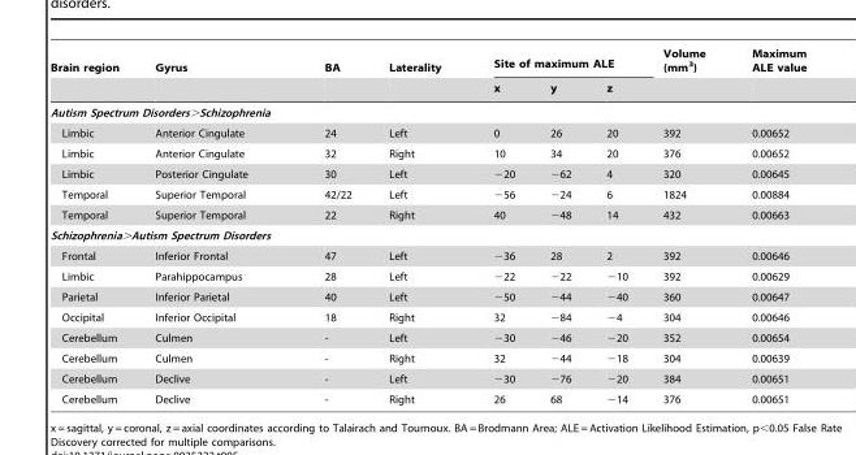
<table><thead><tr><td rowspan="2">Brain region</td><td rowspan="2">Gyrus</td><td rowspan="2">BA</td><td rowspan="2">Laterality</td><td colspan="3">Site of maximum ALE</td><td rowspan="2">Volume (mm<sup>3</sup>)</td><td rowspan="2">Maximum ALE value</td></tr><tr><td>x</td><td>y</td><td>z</td></tr></thead><tbody><tr><td colspan="9">Autism Spectrum Disorders&gt;Schizophrenia</td></tr><tr><td>Limbic</td><td>Anterior Cingulate</td><td>24</td><td>Left</td><td>0</td><td>26</td><td>20</td><td>392</td><td>0.00652</td></tr><tr><td>Limbic</td><td>Anterior Cingulate</td><td>32</td><td>Right</td><td>10</td><td>34</td><td>20</td><td>376</td><td>0.00652</td></tr><tr><td>Limbic</td><td>Posterior Cingulate</td><td>30</td><td>Left</td><td>−20</td><td>−62</td><td>4</td><td>320</td><td>0.00645</td></tr><tr><td>Temporal</td><td>Superior Temporal</td><td>42/22</td><td>Left</td><td>−56</td><td>−24</td><td>6</td><td>1824</td><td>0.00884</td></tr><tr><td>Temporal</td><td>Superior Temporal</td><td>22</td><td>Right</td><td>40</td><td>−48</td><td>14</td><td>432</td><td>0.00663</td></tr><tr><td colspan="9">Schizophrenia&gt;Autism Spectrum Disorders</td></tr><tr><td>Frontal</td><td>Inferior Frontal</td><td>47</td><td>Left</td><td>−36</td><td>28</td><td>2</td><td>392</td><td>0.00646</td></tr><tr><td>Limbic</td><td>Parahippocampus</td><td>28</td><td>Left</td><td>−22</td><td>−22</td><td>−10</td><td>392</td><td>0.00629</td></tr><tr><td>Parietal</td><td>Inferior Parietal</td><td>40</td><td>Left</td><td>−50</td><td>−44</td><td>−40</td><td>360</td><td>0.00647</td></tr><tr><td>Occipital</td><td>Inferior Occipital</td><td>18</td><td>Right</td><td>32</td><td>−84</td><td>−4</td><td>304</td><td>0.00646</td></tr><tr><td>Cerebellum</td><td>Culmen</td><td>-</td><td>Left</td><td>−30</td><td>−46</td><td>−20</td><td>352</td><td>0.00654</td></tr><tr><td>Cerebellum</td><td>Culmen</td><td>-</td><td>Right</td><td>32</td><td>−44</td><td>−18</td><td>304</td><td>0.00639</td></tr><tr><td>Cerebellum</td><td>Declive</td><td>-</td><td>Left</td><td>−30</td><td>−76</td><td>−20</td><td>384</td><td>0.00651</td></tr><tr><td>Cerebellum</td><td>Declive</td><td>-</td><td>Right</td><td>26</td><td>68</td><td>−14</td><td>376</td><td>0.00651</td></tr></tbody></table>